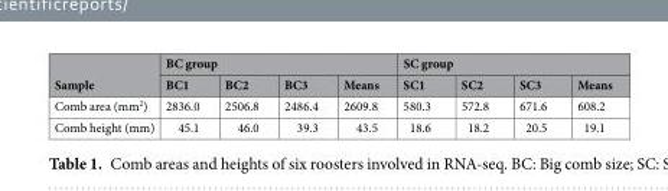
<table><thead><tr><td rowspan="2">Sample</td><td colspan="4">BC group</td><td colspan="4">SC group</td></tr><tr><td>BC1</td><td>BC2</td><td>BC3</td><td>Means</td><td>SC1</td><td>SC2</td><td>SC3</td><td>Means</td></tr></thead><tbody><tr><td>Comb area (mm<sup>2</sup>)</td><td>2836.0</td><td>2506.8</td><td>2486.4</td><td>2609.8</td><td>580.3</td><td>572.8</td><td>671.6</td><td>608.2</td></tr><tr><td>Comb height (mm)</td><td>45.1</td><td>46.0</td><td>39.3</td><td>43.5</td><td>18.6</td><td>18.2</td><td>20.5</td><td>19.1</td></tr></tbody></table>